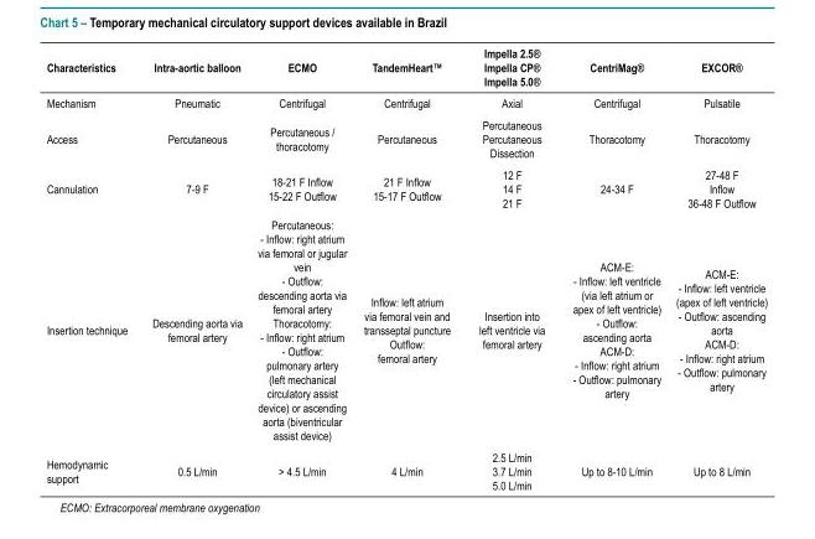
<table><thead><tr><td>Characteristics</td><td>Intra-aortic balloon</td><td>ECMO</td><td>TandemHeart™</td><td>Impella 2.5® Impella CP® Impella 5.0®</td><td>CentriMag®</td><td>EXCOR®</td></tr></thead><tbody><tr><td>Mechanism</td><td>Pneumatic</td><td>Centrifugal</td><td>Centrifugal</td><td>Axial</td><td>Centrifugal</td><td>Pulsatile</td></tr><tr><td>Access</td><td>Percutaneous</td><td>Percutaneous / thoracotomy</td><td>Percutaneous</td><td>Percutaneous Percutaneous Dissection</td><td>Thoracotomy</td><td>Thoracotomy</td></tr><tr><td>Cannulation</td><td>7‑9 F</td><td>18-21 F Inflow 15-22 F Outflow</td><td>21 F Inflow 15-17 F Outflow</td><td>12 F 14 F 21 F</td><td>24‑34 F</td><td>27‑48 F Inflow 36-48 F Outflow</td></tr><tr><td>Insertion technique</td><td>Descending aorta via femoral artery</td><td>Percutaneous: - Inflow: right atrium via femoral or jugular vein - Outflow: descending aorta via femoral artery Thoracotomy: - Inflow: right atrium - Outflow: pulmonary artery (left mechanical circulatory assist device) or ascending aorta (biventricular assist device)</td><td>Inflow: left atrium via femoral vein and transseptal puncture Outflow: femoral artery</td><td>Insertion into left ventricle via femoral artery</td><td>ACM‑E: - Inflow: left ventricle (via left atrium or apex of left ventricle) - Outflow: ascending aorta ACM‑D: - Inflow: right atrium - Outflow: pulmonary artery</td><td>ACM‑E: - Inflow: left ventricle (apex of left ventricle) - Outflow: ascending aorta ACM‑D: - Inflow: right atrium - Outflow: pulmonary artery</td></tr><tr><td>Hemodynamic support</td><td>0.5 L/min</td><td>&gt; 4.5 L/min</td><td>4 L/min</td><td>2.5 L/min 3.7 L/min 5.0 L/min</td><td>Up to 8‑10 L/min</td><td>Up to 8 L/min</td></tr></tbody></table>